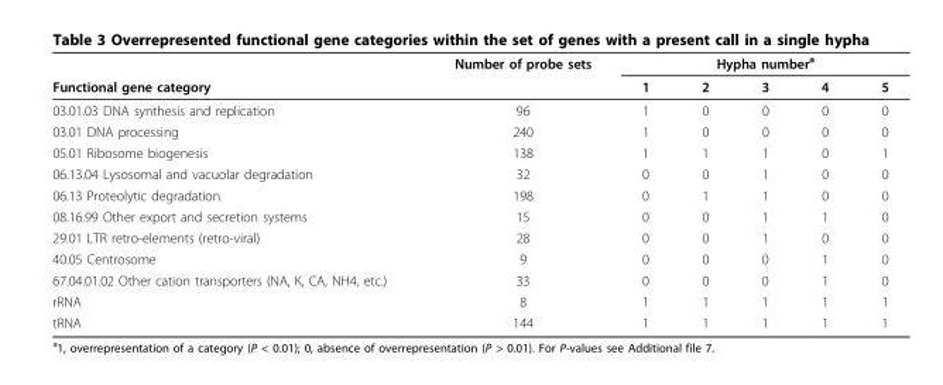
<table><thead><tr><td rowspan="2">Functional gene category</td><td rowspan="2">Number of probe sets</td><td colspan="5">Hypha number<sup>a</sup></td></tr><tr><td>1</td><td>2</td><td>3</td><td>4</td><td>5</td></tr></thead><tbody><tr><td>03.01.03 DNA synthesis and replication</td><td>96</td><td>1</td><td>0</td><td>0</td><td>0</td><td>0</td></tr><tr><td>03.01 DNA processing</td><td>240</td><td>1</td><td>0</td><td>0</td><td>0</td><td>0</td></tr><tr><td>05.01 Ribosome biogenesis</td><td>138</td><td>1</td><td>1</td><td>1</td><td>0</td><td>1</td></tr><tr><td>06.13.04 Lysosomal and vacuolar degradation</td><td>32</td><td>0</td><td>0</td><td>1</td><td>0</td><td>0</td></tr><tr><td>06.13 Proteolytic degradation</td><td>198</td><td>0</td><td>1</td><td>1</td><td>0</td><td>0</td></tr><tr><td>08.16.99 Other export and secretion systems</td><td>15</td><td>0</td><td>0</td><td>1</td><td>1</td><td>0</td></tr><tr><td>29.01 LTR retro-elements (retro-viral)</td><td>28</td><td>0</td><td>0</td><td>1</td><td>0</td><td>0</td></tr><tr><td>40.05 Centrosome</td><td>9</td><td>0</td><td>0</td><td>0</td><td>1</td><td>0</td></tr><tr><td>67.04.01.02 Other cation transporters (NA, K, CA, NH4, etc.)</td><td>33</td><td>0</td><td>0</td><td>0</td><td>1</td><td>0</td></tr><tr><td>rRNA</td><td>8</td><td>1</td><td>1</td><td>1</td><td>1</td><td>1</td></tr><tr><td>tRNA</td><td>144</td><td>1</td><td>1</td><td>1</td><td>1</td><td>1</td></tr></tbody></table>